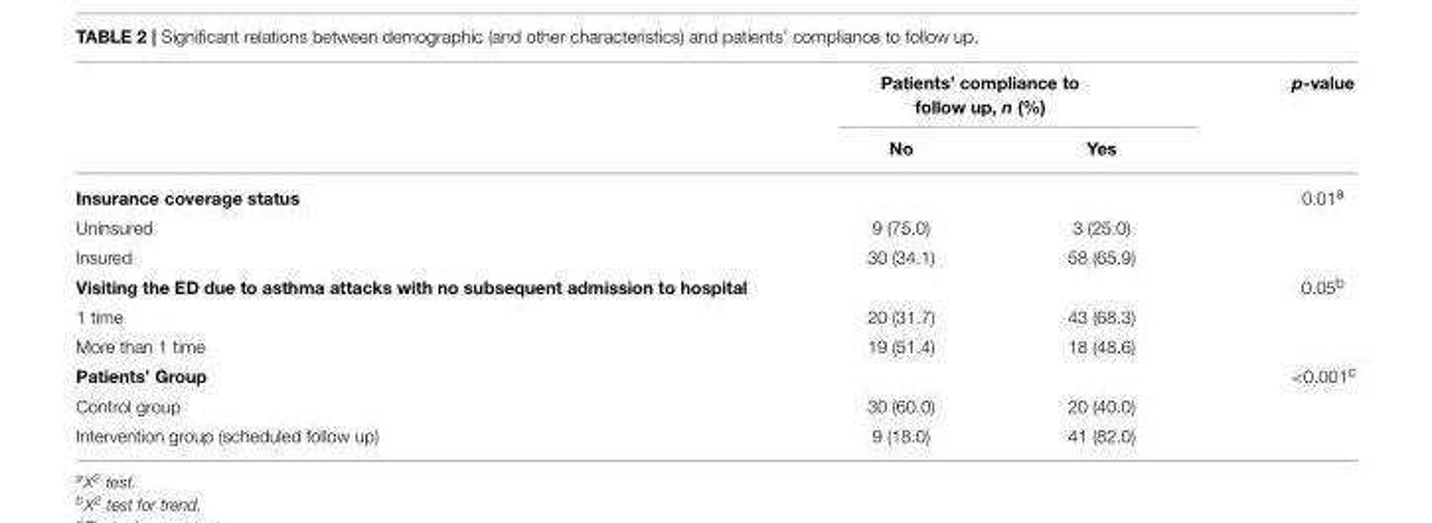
<table><thead><tr><td rowspan="2"></td><td colspan="2">Patients’ compliance to follow up, n (%)</td><td rowspan="2">p-value</td></tr><tr><td>No</td><td>Yes</td></tr></thead><tbody><tr><td>Insurance coverage status</td><td></td><td></td><td>0.01<sup>a</sup></td></tr><tr><td>Uninsured</td><td>9 (75.0)</td><td>3 (25.0)</td><td></td></tr><tr><td>Insured</td><td>30 (34.1)</td><td>58 (65.9)</td><td></td></tr><tr><td>Visiting the ED due to asthma attacks with no subsequent admission to hospital</td><td></td><td></td><td>0.05<sup>b</sup></td></tr><tr><td>1 time</td><td>20 (31.7)</td><td>43 (68.3)</td><td></td></tr><tr><td>More than 1 time</td><td>19 (51.4)</td><td>18 (48.6)</td><td></td></tr><tr><td>Patients’ Group</td><td></td><td></td><td>&lt;0.001<sup>c</sup></td></tr><tr><td>Control group</td><td>30 (60.0)</td><td>20 (40.0)</td><td></td></tr><tr><td>Intervention group (scheduled follow up)</td><td>9 (18.0)</td><td>41 (82.0)</td><td></td></tr></tbody></table>